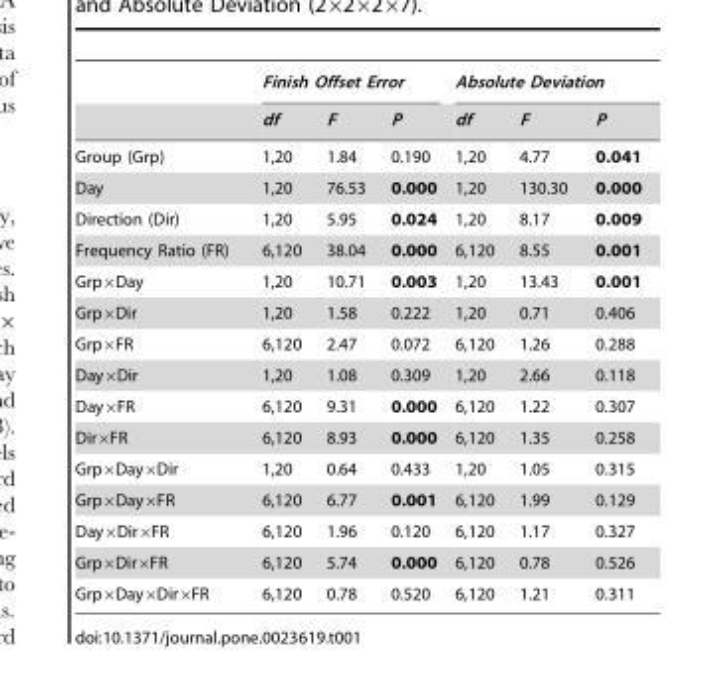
<table><thead><tr><td rowspan="2"></td><td colspan="3">Finish Offset Error</td><td colspan="3">Absolute Deviation</td></tr><tr><td>df</td><td>F</td><td>P</td><td>df</td><td>F</td><td>P</td></tr></thead><tbody><tr><td>Group (Grp)</td><td>1,20</td><td>1.84</td><td>0.190</td><td>1,20</td><td>4.77</td><td>0.041</td></tr><tr><td>Day</td><td>1,20</td><td>76.53</td><td>0.000</td><td>1,20</td><td>130.30</td><td>0.000</td></tr><tr><td>Direction (Dir)</td><td>1,20</td><td>5.95</td><td>0.024</td><td>1,20</td><td>8.17</td><td>0.009</td></tr><tr><td>Frequency Ratio (FR)</td><td>6,120</td><td>38.04</td><td>0.000</td><td>6,120</td><td>8.55</td><td>0.001</td></tr><tr><td>Grp×Day</td><td>1,20</td><td>10.71</td><td>0.003</td><td>1,20</td><td>13.43</td><td>0.001</td></tr><tr><td>Grp×Dir</td><td>1,20</td><td>1.58</td><td>0.222</td><td>1,20</td><td>0.71</td><td>0.406</td></tr><tr><td>Grp×FR</td><td>6,120</td><td>2.47</td><td>0.072</td><td>6,120</td><td>1.26</td><td>0.288</td></tr><tr><td>Day×Dir</td><td>1,20</td><td>1.08</td><td>0.309</td><td>1,20</td><td>2.66</td><td>0.118</td></tr><tr><td>Day×FR</td><td>6,120</td><td>9.31</td><td>0.000</td><td>6,120</td><td>1.22</td><td>0.307</td></tr><tr><td>Dir×FR</td><td>6,120</td><td>8.93</td><td>0.000</td><td>6,120</td><td>1.35</td><td>0.258</td></tr><tr><td>Grp×Day×Dir</td><td>1,20</td><td>0.64</td><td>0.433</td><td>1,20</td><td>1.05</td><td>0.315</td></tr><tr><td>Grp×Day×FR</td><td>6,120</td><td>6.77</td><td>0.001</td><td>6,120</td><td>1.99</td><td>0.129</td></tr><tr><td>Day×Dir×FR</td><td>6,120</td><td>1.96</td><td>0.120</td><td>6,120</td><td>1.17</td><td>0.327</td></tr><tr><td>Grp×Dir×FR</td><td>6,120</td><td>5.74</td><td>0.000</td><td>6,120</td><td>0.78</td><td>0.526</td></tr><tr><td>Grp×Day×Dir×FR</td><td>6,120</td><td>0.78</td><td>0.520</td><td>6,120</td><td>1.21</td><td>0.311</td></tr></tbody></table>